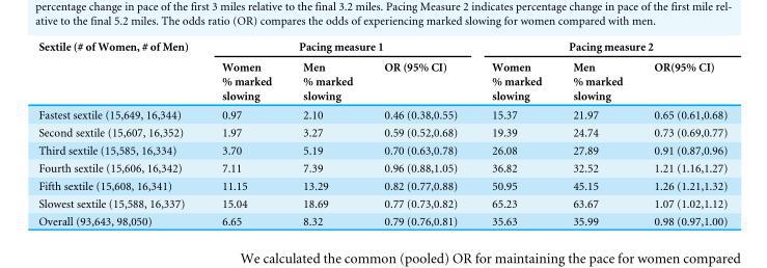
<table><thead><tr><td rowspan="3">Sextile (# of Women, # of Men)</td><td colspan="3">Pacing measure 1</td><td colspan="3">Pacing measure 2</td></tr><tr><td rowspan="2">Women % marked slowing</td><td rowspan="2">Men % marked slowing</td><td rowspan="2">OR (95% CI)</td><td rowspan="2">Women % marked slowing</td><td rowspan="2">Men % marked slowing</td><td rowspan="2">OR(95% CI)</td></tr><tr></tr></thead><tbody><tr><td>Fastest sextile (15,649, 16,344)</td><td>0.97</td><td>2.10</td><td>0.46 (0.38,0.55)</td><td>15.37</td><td>21.97</td><td>0.65 (0.61,0.68)</td></tr><tr><td>Second sextile (15,607, 16,352)</td><td>1.97</td><td>3.27</td><td>0.59 (0.52,0.68)</td><td>19.39</td><td>24.74</td><td>0.73 (0.69,0.77)</td></tr><tr><td>Third sextile (15,585, 16,334)</td><td>3.70</td><td>5.19</td><td>0.70 (0.63,0.78)</td><td>26.08</td><td>27.89</td><td>0.91 (0.87,0.96)</td></tr><tr><td>Fourth sextile (15,606, 16,342)</td><td>7.11</td><td>7.39</td><td>0.96 (0.88,1.05)</td><td>36.82</td><td>32.52</td><td>1.21 (1.16,1.27)</td></tr><tr><td>Fifth sextile (15,608, 16,341)</td><td>11.15</td><td>13.29</td><td>0.82 (0.77,0.88)</td><td>50.95</td><td>45.15</td><td>1.26 (1.21,1.32)</td></tr><tr><td>Slowest sextile (15,588, 16,337)</td><td>15.04</td><td>18.69</td><td>0.77 (0.73,0.82)</td><td>65.23</td><td>63.67</td><td>1.07 (1.02,1.12)</td></tr><tr><td>Overall (93,643, 98,050)</td><td>6.65</td><td>8.32</td><td>0.79 (0.76,0.81)</td><td>35.63</td><td>35.99</td><td>0.98 (0.97,1.00)</td></tr></tbody></table>